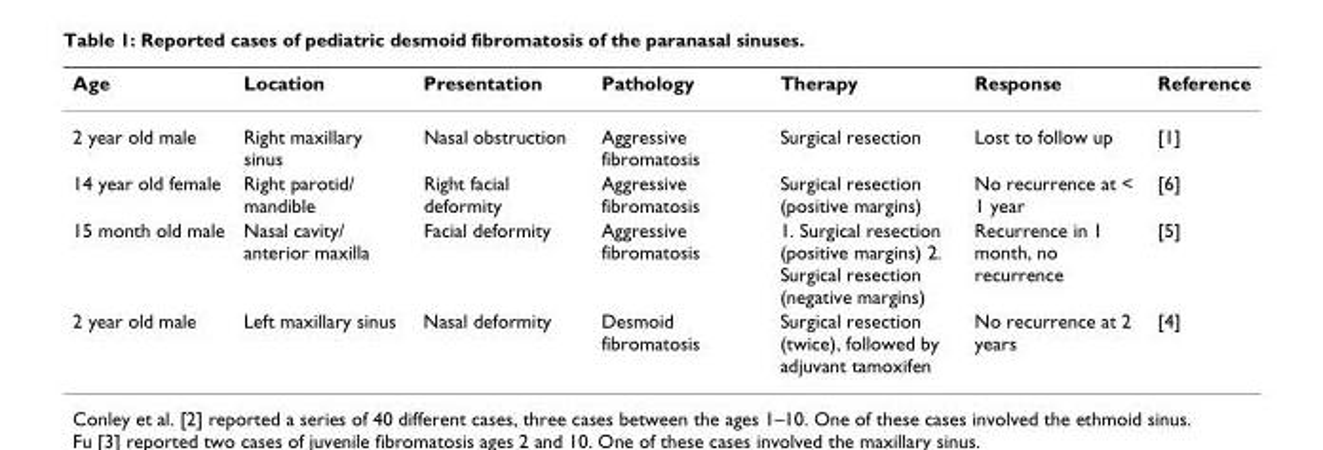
<table><thead><tr><td>Age</td><td>Location</td><td>Presentation</td><td>Pathology</td><td>Therapy</td><td>Response</td><td>Reference</td></tr></thead><tbody><tr><td>2 year old male</td><td>Right maxillary sinus</td><td>Nasal obstruction</td><td>Aggressive fibromatosis</td><td>Surgical resection</td><td>Lost to follow up</td><td>[1]</td></tr><tr><td>14 year old female</td><td>Right parotid/ mandible</td><td>Right facial deformity</td><td>Aggressive fibromatosis</td><td>Surgical resection (positive margins)</td><td>No recurrence at &lt; 1 year</td><td>[6]</td></tr><tr><td>15 month old male</td><td>Nasal cavity/ anterior maxilla</td><td>Facial deformity</td><td>Aggressive fibromatosis</td><td>1. Surgical resection (positive margins) 2. Surgical resection (negative margins)</td><td>Recurrence in 1 month, no recurrence</td><td>[5]</td></tr><tr><td>2 year old male</td><td>Left maxillary sinus</td><td>Nasal deformity</td><td>Desmoid fibromatosis</td><td>Surgical resection (twice), followed by adjuvant tamoxifen</td><td>No recurrence at 2 years</td><td>[4]</td></tr></tbody></table>